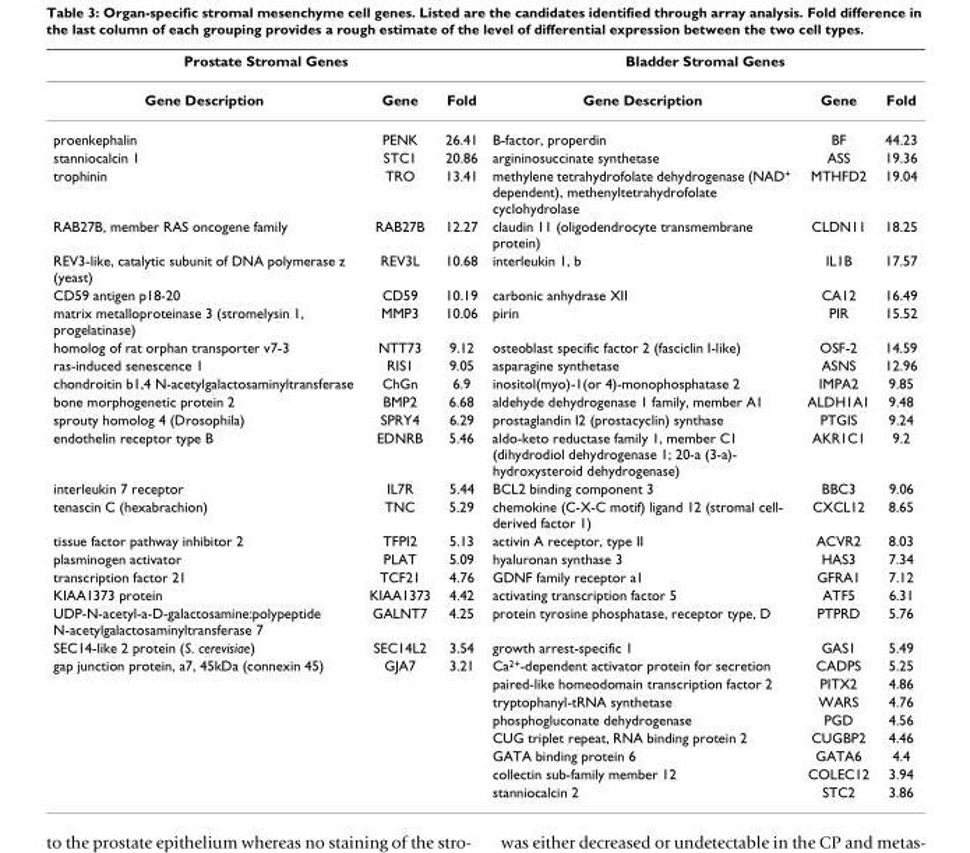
<table><thead><tr><td colspan="3">Prostate Stromal Genes</td><td colspan="3">Bladder Stromal Genes</td></tr><tr><td>Gene Description</td><td>Gene</td><td>Fold</td><td>Gene Description</td><td>Gene</td><td>Fold</td></tr></thead><tbody><tr><td>proenkephalin</td><td>PENK</td><td>26.41</td><td>B-factor, properdin</td><td>BF</td><td>44.23</td></tr><tr><td>stanniocalcin 1</td><td>STC1</td><td>20.86</td><td>argininosuccinate synthetase</td><td>ASS</td><td>19.36</td></tr><tr><td>trophinin</td><td>TRO</td><td>13.41</td><td>methylene tetrahydrofolate dehydrogenase (NAD<sup>+</sup> dependent), methenyltetrahydrofolate cyclohydrolase</td><td>MTHFD2</td><td>19.04</td></tr><tr><td>RAB27B, member RAS oncogene family</td><td>RAB27B</td><td>12.27</td><td>claudin 11 (oligodendrocyte transmembrane protein)</td><td>CLDN11</td><td>18.25</td></tr><tr><td>REV3-like, catalytic subunit of DNA polymerase z (yeast)</td><td>REV3L</td><td>10.68</td><td>interleukin 1, b</td><td>IL1B</td><td>17.57</td></tr><tr><td>CD59 antigen p18-20</td><td>CD59</td><td>10.19</td><td>carbonic anhydrase XII</td><td>CA12</td><td>16.49</td></tr><tr><td>matrix metalloproteinase 3 (stromelysin 1, progelatinase)</td><td>MMP3</td><td>10.06</td><td>pirin</td><td>PIR</td><td>15.52</td></tr><tr><td>homolog of rat orphan transporter v7-3</td><td>NTT73</td><td>9.12</td><td>osteoblast specific factor 2 (fasciclin I-like)</td><td>OSF-2</td><td>14.59</td></tr><tr><td>ras-induced senescence 1</td><td>RIS1</td><td>9.05</td><td>asparagine synthetase</td><td>ASNS</td><td>12.96</td></tr><tr><td>chondroitin b1,4 N-acetylgalactosaminyltransferase</td><td>ChGn</td><td>6.9</td><td>inositol(myo)-1(or 4)-monophosphatase 2</td><td>IMPA2</td><td>9.85</td></tr><tr><td>bone morphogenetic protein 2</td><td>BMP2</td><td>6.68</td><td>aldehyde dehydrogenase 1 family, member A1</td><td>ALDH1A1</td><td>9.48</td></tr><tr><td>sprouty homolog 4 (Drosophila)</td><td>SPRY4</td><td>6.29</td><td>prostaglandin I2 (prostacyclin) synthase</td><td>PTGIS</td><td>9.24</td></tr><tr><td>endothelin receptor type B</td><td>EDNRB</td><td>5.46</td><td>aldo-keto reductase family 1, member C1 (dihydrodiol dehydrogenase 1; 20-a (3-a)- hydroxysteroid dehydrogenase)</td><td>AKR1C1</td><td>9.2</td></tr><tr><td>interleukin 7 receptor</td><td>IL7R</td><td>5.44</td><td>BCL2 binding component 3</td><td>BBC3</td><td>9.06</td></tr><tr><td>tenascin C (hexabrachion)</td><td>TNC</td><td>5.29</td><td>chemokine (C-X-C motif) ligand 12 (stromal cell- derived factor 1)</td><td>CXCL12</td><td>8.65</td></tr><tr><td>tissue factor pathway inhibitor 2</td><td>TFPI2</td><td>5.13</td><td>activin A receptor, type II</td><td>ACVR2</td><td>8.03</td></tr><tr><td>plasminogen activator</td><td>PLAT</td><td>5.09</td><td>hyaluronan synthase 3</td><td>HAS3</td><td>7.34</td></tr><tr><td>transcription factor 21</td><td>TCF21</td><td>4.76</td><td>GDNF family receptor a1</td><td>GFRA1</td><td>7.12</td></tr><tr><td>KIAA1373 protein</td><td>KIAA1373</td><td>4.42</td><td>activating transcription factor 5</td><td>ATF5</td><td>6.31</td></tr><tr><td>UDP-N-acetyl-a-D-galactosamine:polypeptide N-acetylgalactosaminyltransferase 7</td><td>GALNT7</td><td>4.25</td><td>protein tyrosine phosphatase, receptor type, D</td><td>PTPRD</td><td>5.76</td></tr><tr><td>SEC14-like 2 protein (S. cerevisiae)</td><td>SEC14L2</td><td>3.54</td><td>growth arrest-specific 1</td><td>GAS1</td><td>5.49</td></tr><tr><td rowspan="8">gap junction protein, a7, 45kDa (connexin 45)</td><td>GJA7</td><td>3.21</td><td>Ca<sup>2+</sup>-dependent activator protein for secretion</td><td>CADPS</td><td>5.25</td></tr><tr><td></td><td></td><td>paired-like homeodomain transcription factor 2</td><td>PITX2</td><td>4.86</td></tr><tr><td></td><td></td><td>tryptophanyl-tRNA synthetase</td><td>WARS</td><td>4.76</td></tr><tr><td></td><td></td><td>phosphogluconate dehydrogenase</td><td>PGD</td><td>4.56</td></tr><tr><td></td><td></td><td>CUG triplet repeat, RNA binding protein 2</td><td>CUGBP2</td><td>4.46</td></tr><tr><td></td><td></td><td>GATA binding protein 6</td><td>GATA6</td><td>4.4</td></tr><tr><td></td><td></td><td>collectin sub-family member 12</td><td>COLEC12</td><td>3.94</td></tr><tr><td></td><td></td><td>stanniocalcin 2</td><td>STC2</td><td>3.86</td></tr></tbody></table>